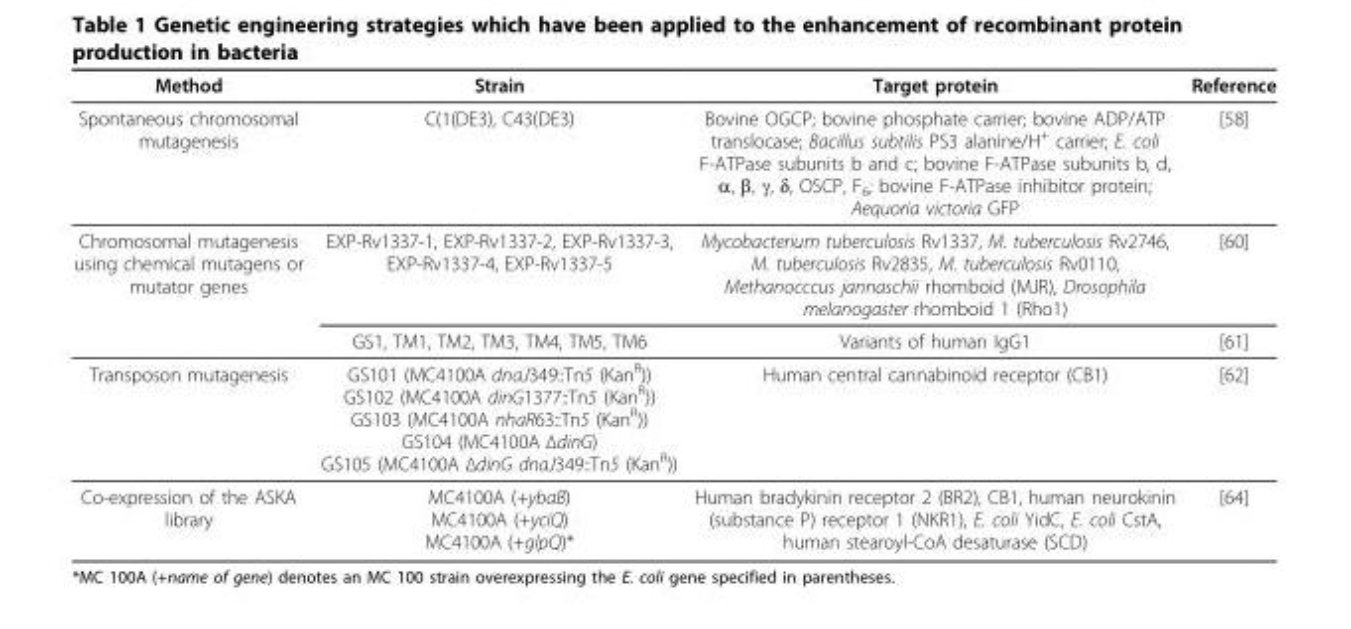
<table><thead><tr><td>Method</td><td>Strain</td><td>Target protein</td><td>Reference</td></tr></thead><tbody><tr><td>Spontaneous chromosomal mutagenesis</td><td>C(1(DE3), C43(DE3)</td><td>Bovine OGCP; bovine phosphate carrier; bovine ADP/ATP translocase; Bacillus subtilis PS3 alanine/H<sup>+</sup> carrier; E. coli F-ATPase subunits b and c; bovine F-ATPase subunits b, d, α, β, γ, δ, OSCP, F<sub>6</sub>; bovine F-ATPase inhibitor protein; Aequoria victoria GFP</td><td>[58]</td></tr><tr><td rowspan="2">Chromosomal mutagenesis using chemical mutagens or mutator genes</td><td>EXP-Rv1337-1, EXP-Rv1337-2, EXP-Rv1337-3, EXP-Rv1337-4, EXP-Rv1337-5</td><td>Mycobacterium tuberculosis Rv1337, M. tuberculosis Rv2746, M. tuberculosis Rv2835, M. tuberculosis Rv0110, Methanocccus jannaschii rhomboid (MJR), Drosophila melanogaster rhomboid 1 (Rho1)</td><td>[60]</td></tr><tr><td>GS1, TM1, TM2, TM3, TM4, TM5, TM6</td><td>Variants of human IgG1</td><td>[61]</td></tr><tr><td>Transposon mutagenesis</td><td>GS101 (MC4100A dnaJ349::Tn5 (Kan<sup>R</sup>)) GS102 (MC4100A dinG1377::Tn5 (Kan<sup>R</sup>)) GS103 (MC4100A nhaR63::Tn5 (Kan<sup>R</sup>)) GS104 (MC4100A ΔdinG) GS105 (MC4100A ΔdinG dnaJ349::Tn5 (Kan<sup>R</sup>))</td><td>Human central cannabinoid receptor (CB1)</td><td>[62]</td></tr><tr><td>Co-expression of the ASKA library</td><td>MC4100A (+ybaB) MC4100A (+yciQ) MC4100A (+glpQ)*</td><td>Human bradykinin receptor 2 (BR2), CB1, human neurokinin (substance P) receptor 1 (NKR1), E. coli YidC, E. coli CstA, human stearoyl-CoA desaturase (SCD)</td><td>[64]</td></tr></tbody></table>